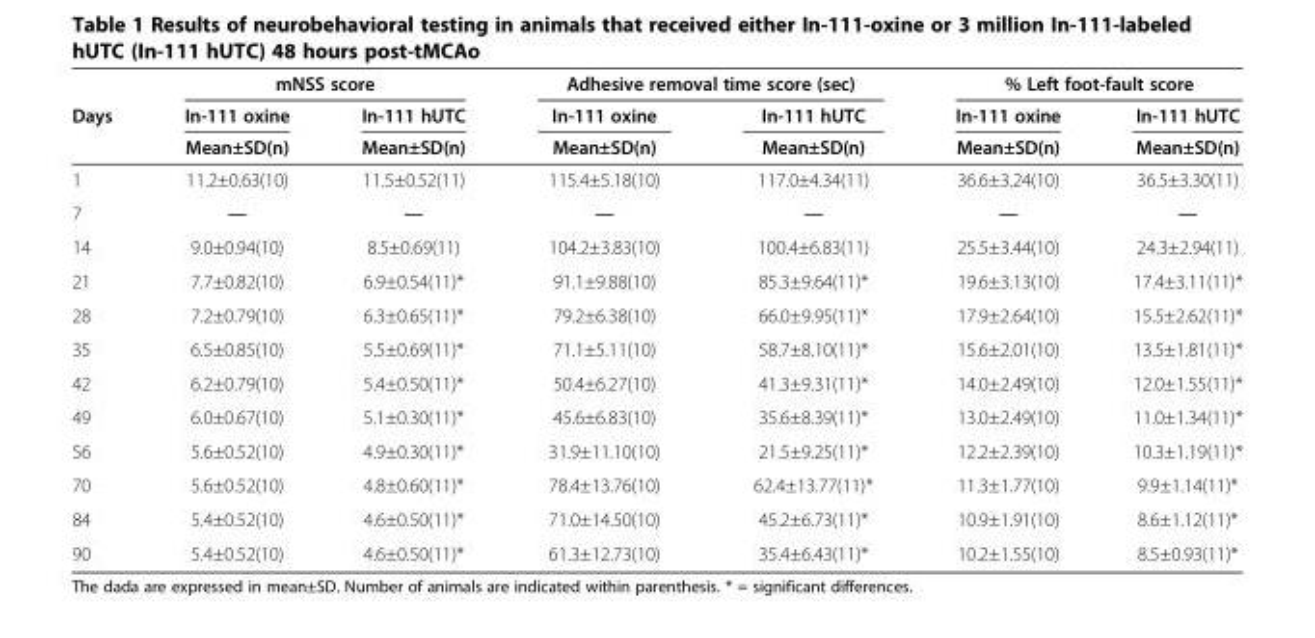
<table><thead><tr><td rowspan="3">Days</td><td colspan="2">mNSS score</td><td colspan="2">Adhesive removal time score (sec)</td><td colspan="2">% Left foot-fault score</td></tr><tr><td rowspan="2">In-111 oxine Mean±SD(n)</td><td rowspan="2">In-111 hUTC Mean±SD(n)</td><td rowspan="2">In-111 oxine Mean±SD(n)</td><td rowspan="2">In-111 hUTC Mean±SD(n)</td><td rowspan="2">In-111 oxine Mean±SD(n)</td><td rowspan="2">In-111 hUTC Mean±SD(n)</td></tr><tr></tr></thead><tbody><tr><td>1</td><td>11.2±0.63(10)</td><td>11.5±0.52(11)</td><td>115.4±5.18(10)</td><td>117.0±4.34(11)</td><td>36.6±3.24(10)</td><td>36.5±3.30(11)</td></tr><tr><td>7</td><td>―</td><td>―</td><td>―</td><td>―</td><td>―</td><td>―</td></tr><tr><td>14</td><td>9.0±0.94(10)</td><td>8.5±0.69(11)</td><td>104.2±3.83(10)</td><td>100.4±6.83(11)</td><td>25.5±3.44(10)</td><td>24.3±2.94(11)</td></tr><tr><td>21</td><td>7.7±0.82(10)</td><td>6.9±0.54(11)*</td><td>91.1±9.88(10)</td><td>85.3±9.64(11)*</td><td>19.6±3.13(10)</td><td>17.4±3.11(11)*</td></tr><tr><td>28</td><td>7.2±0.79(10)</td><td>6.3±0.65(11)*</td><td>79.2±6.38(10)</td><td>66.0±9.95(11)*</td><td>17.9±2.64(10)</td><td>15.5±2.62(11)*</td></tr><tr><td>35</td><td>6.5±0.85(10)</td><td>5.5±0.69(11)*</td><td>71.1±5.11(10)</td><td>58.7±8.10(11)*</td><td>15.6±2.01(10)</td><td>13.5±1.81(11)*</td></tr><tr><td>42</td><td>6.2±0.79(10)</td><td>5.4±0.50(11)*</td><td>50.4±6.27(10)</td><td>41.3±9.31(11)*</td><td>14.0±2.49(10)</td><td>12.0±1.55(11)*</td></tr><tr><td>49</td><td>6.0±0.67(10)</td><td>5.1±0.30(11)*</td><td>45.6±6.83(10)</td><td>35.6±8.39(11)*</td><td>13.0±2.49(10)</td><td>11.0±1.34(11)*</td></tr><tr><td>56</td><td>5.6±0.52(10)</td><td>4.9±0.30(11)*</td><td>31.9±11.10(10)</td><td>21.5±9.25(11)*</td><td>12.2±2.39(10)</td><td>10.3±1.19(11)*</td></tr><tr><td>70</td><td>5.6±0.52(10)</td><td>4.8±0.60(11)*</td><td>78.4±13.76(10)</td><td>62.4±13.77(11)*</td><td>11.3±1.77(10)</td><td>9.9±1.14(11)*</td></tr><tr><td>84</td><td>5.4±0.52(10)</td><td>4.6±0.50(11)*</td><td>71.0±14.50(10)</td><td>45.2±6.73(11)*</td><td>10.9±1.91(10)</td><td>8.6±1.12(11)*</td></tr><tr><td>90</td><td>5.4±0.52(10)</td><td>4.6±0.50(11)*</td><td>61.3±12.73(10)</td><td>35.4±6.43(11)*</td><td>10.2±1.55(10)</td><td>8.5±0.93(11)*</td></tr></tbody></table>